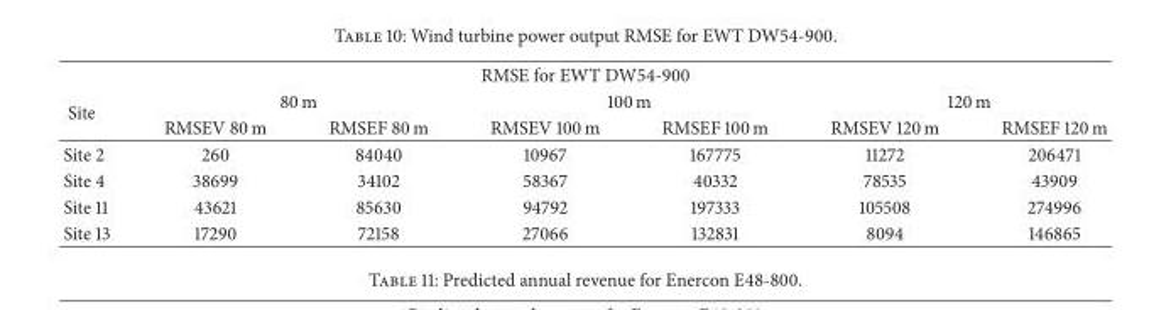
<table><thead><tr><td colspan="7">RMSE for EWT DW54-900</td></tr><tr><td rowspan="2">Site</td><td colspan="2">80 m</td><td colspan="2">100 m</td><td colspan="2">120 m</td></tr><tr><td>RMSEV 80 m</td><td>RMSEF 80 m</td><td>RMSEV 100 m</td><td>RMSEF 100 m</td><td>RMSEV 120 m</td><td>RMSEF 120 m</td></tr></thead><tbody><tr><td>Site 2</td><td>260</td><td>84040</td><td>10967</td><td>167775</td><td>11272</td><td>206471</td></tr><tr><td>Site 4</td><td>38699</td><td>34102</td><td>58367</td><td>40332</td><td>78535</td><td>43909</td></tr><tr><td>Site 11</td><td>43621</td><td>85630</td><td>94792</td><td>197333</td><td>105508</td><td>274996</td></tr><tr><td>Site 13</td><td>17290</td><td>72158</td><td>27066</td><td>132831</td><td>8094</td><td>146865</td></tr></tbody></table>